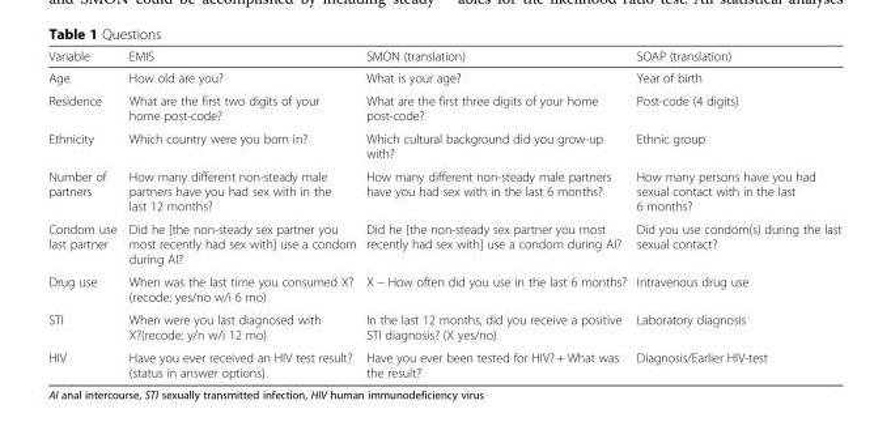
<table><thead><tr><td>Variable</td><td>EMIS</td><td>SMON (translation)</td><td>SOAP (translation)</td></tr></thead><tbody><tr><td>Age</td><td>How old are you?</td><td>What is your age?</td><td>Year of birth</td></tr><tr><td>Residence</td><td>What are the first two digits of your home post-code?</td><td>What are the first three digits of your home post-code?</td><td>Post-code (4 digits)</td></tr><tr><td>Ethnicity</td><td>Which country were you born in?</td><td>Which cultural background did you grow-up with?</td><td>Ethnic group</td></tr><tr><td>Number of partners</td><td>How many different non-steady male partners have you had sex with in the last 12 months?</td><td>How many different non-steady male partners have you had sex with in the last 6 months?</td><td>How many persons have you had sexual contact with in the last 6 months?</td></tr><tr><td>Condom use last partner</td><td>Did he [the non-steady sex partner you most recently had sex with] use a condom during AI?</td><td>Did he [the non-steady sex partner you most recently had sex with] use a condom during AI?</td><td>Did you use condom(s) during the last sexual contact?</td></tr><tr><td>Drug use</td><td>When was the last time you consumed X? (recode: yes/no w/i 6 mo)</td><td>X – How often did you use in the last 6 months?</td><td>Intravenous drug use</td></tr><tr><td>STI</td><td>When were you last diagnosed with X?(recode: y/n w/i 12 mo)</td><td>In the last 12 months, did you receive a positive STI diagnosis? (X yes/no)</td><td>Laboratory diagnosis</td></tr><tr><td>HIV</td><td>Have you ever received an HIV test result? (status in answer options)</td><td>Have you ever been tested for HIV? + What was the result?</td><td>Diagnosis/Earlier HIV-test</td></tr></tbody></table>